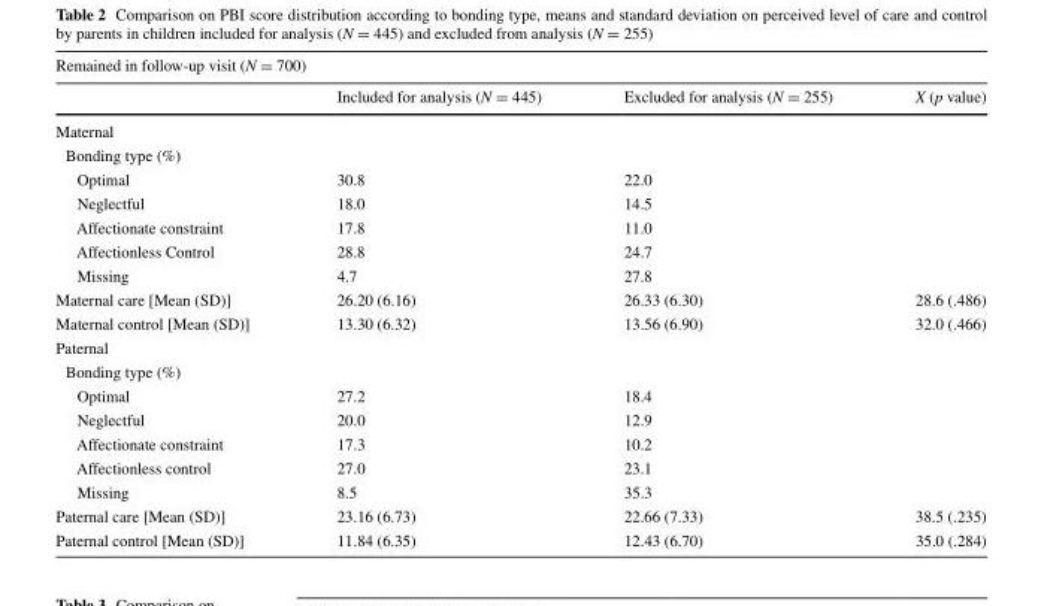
<table><thead><tr><td colspan="4">Remained in follow-up visit (N = 700)</td></tr><tr><td></td><td>Included for analysis (N = 445)</td><td>Excluded for analysis (N = 255)</td><td>X (p value)</td></tr></thead><tbody><tr><td colspan="4">Maternal</td></tr><tr><td colspan="4">Bonding type (%)</td></tr><tr><td>Optimal</td><td>30.8</td><td>22.0</td><td></td></tr><tr><td>Neglectful</td><td>18.0</td><td>14.5</td><td></td></tr><tr><td>Affectionate constraint</td><td>17.8</td><td>11.0</td><td></td></tr><tr><td>Affectionless Control</td><td>28.8</td><td>24.7</td><td></td></tr><tr><td>Missing</td><td>4.7</td><td>27.8</td><td></td></tr><tr><td>Maternal care [Mean (SD)]</td><td>26.20 (6.16)</td><td>26.33 (6.30)</td><td>28.6 (.486)</td></tr><tr><td>Maternal control [Mean (SD)]</td><td>13.30 (6.32)</td><td>13.56 (6.90)</td><td>32.0 (.466)</td></tr><tr><td colspan="4">Paternal</td></tr><tr><td colspan="4">Bonding type (%)</td></tr><tr><td>Optimal</td><td>27.2</td><td>18.4</td><td></td></tr><tr><td>Neglectful</td><td>20.0</td><td>12.9</td><td></td></tr><tr><td>Affectionate constraint</td><td>17.3</td><td>10.2</td><td></td></tr><tr><td>Affectionless control</td><td>27.0</td><td>23.1</td><td></td></tr><tr><td>Missing</td><td>8.5</td><td>35.3</td><td></td></tr><tr><td>Paternal care [Mean (SD)]</td><td>23.16 (6.73)</td><td>22.66 (7.33)</td><td>38.5 (.235)</td></tr><tr><td>Paternal control [Mean (SD)]</td><td>11.84 (6.35)</td><td>12.43 (6.70)</td><td>35.0 (.284)</td></tr></tbody></table>